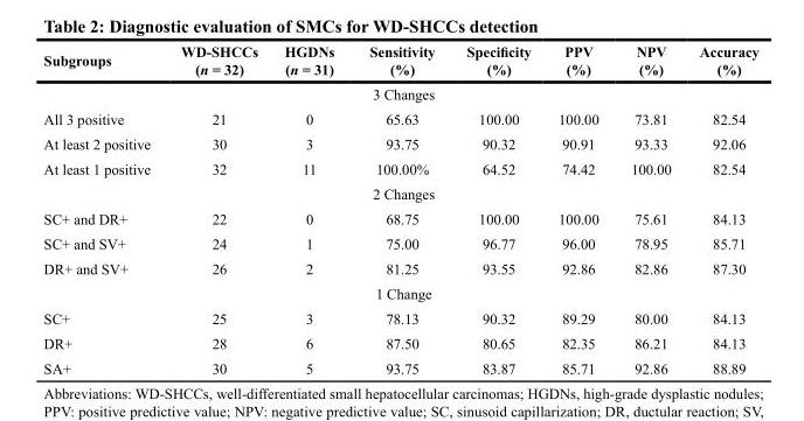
<table><thead><tr><td>Subgroups</td><td>WD-SHCCs (n = 32)</td><td>HGDNs (n = 31)</td><td>Sensitivity (%)</td><td>Specificity (%)</td><td>PPV (%)</td><td>NPV (%)</td><td>Accuracy (%)</td></tr></thead><tbody><tr><td colspan="8">3 Changes</td></tr><tr><td>All 3 positive</td><td>21</td><td>0</td><td>65.63</td><td>100.00</td><td>100.00</td><td>73.81</td><td>82.54</td></tr><tr><td>At least 2 positive</td><td>30</td><td>3</td><td>93.75</td><td>90.32</td><td>90.91</td><td>93.33</td><td>92.06</td></tr><tr><td>At least 1 positive</td><td>32</td><td>11</td><td>100.00%</td><td>64.52</td><td>74.42</td><td>100.00</td><td>82.54</td></tr><tr><td colspan="8">2 Changes</td></tr><tr><td>SC+ and DR+</td><td>22</td><td>0</td><td>68.75</td><td>100.00</td><td>100.00</td><td>75.61</td><td>84.13</td></tr><tr><td>SC+ and SV+</td><td>24</td><td>1</td><td>75.00</td><td>96.77</td><td>96.00</td><td>78.95</td><td>85.71</td></tr><tr><td>DR+ and SV+</td><td>26</td><td>2</td><td>81.25</td><td>93.55</td><td>92.86</td><td>82.86</td><td>87.30</td></tr><tr><td colspan="8">1 Change</td></tr><tr><td>SC+</td><td>25</td><td>3</td><td>78.13</td><td>90.32</td><td>89.29</td><td>80.00</td><td>84.13</td></tr><tr><td>DR+</td><td>28</td><td>6</td><td>87.50</td><td>80.65</td><td>82.35</td><td>86.21</td><td>84.13</td></tr><tr><td>SA+</td><td>30</td><td>5</td><td>93.75</td><td>83.87</td><td>85.71</td><td>92.86</td><td>88.89</td></tr></tbody></table>